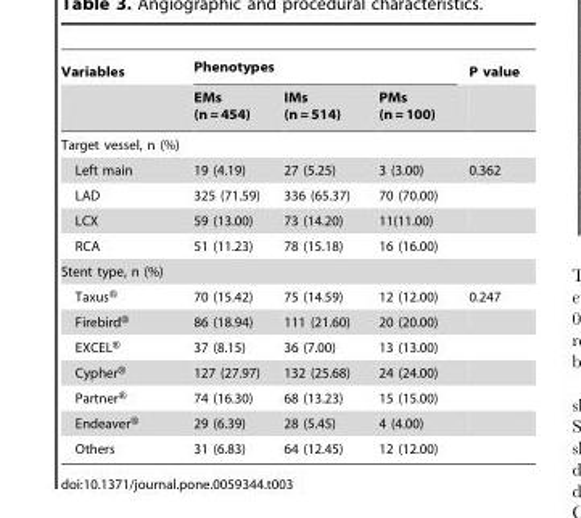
<table><thead><tr><td rowspan="2">Variables</td><td colspan="3">Phenotypes</td><td rowspan="2">P value</td></tr><tr><td>EMs (n = 454)</td><td>IMs (n = 514)</td><td>PMs (n = 100)</td></tr></thead><tbody><tr><td colspan="5">Target vessel, n (%)</td></tr><tr><td>Left main</td><td>19 (4.19)</td><td>27 (5.25)</td><td>3 (3.00)</td><td>0.362</td></tr><tr><td>LAD</td><td>325 (71.59)</td><td>336 (65.37)</td><td>70 (70.00)</td><td></td></tr><tr><td>LCX</td><td>59 (13.00)</td><td>73 (14.20)</td><td>11(11.00)</td><td></td></tr><tr><td>RCA</td><td>51 (11.23)</td><td>78 (15.18)</td><td>16 (16.00)</td><td></td></tr><tr><td colspan="5">Stent type, n (%)</td></tr><tr><td>Taxus®</td><td>70 (15.42)</td><td>75 (14.59)</td><td>12 (12.00)</td><td>0.247</td></tr><tr><td>Firebird®</td><td>86 (18.94)</td><td>111 (21.60)</td><td>20 (20.00)</td><td></td></tr><tr><td>EXCEL®</td><td>37 (8.15)</td><td>36 (7.00)</td><td>13 (13.00)</td><td></td></tr><tr><td>Cypher®</td><td>127 (27.97)</td><td>132 (25.68)</td><td>24 (24.00)</td><td></td></tr><tr><td>Partner®</td><td>74 (16.30)</td><td>68 (13.23)</td><td>15 (15.00)</td><td></td></tr><tr><td>Endeaver®</td><td>29 (6.39)</td><td>28 (5.45)</td><td>4 (4.00)</td><td></td></tr><tr><td>Others</td><td>31 (6.83)</td><td>64 (12.45)</td><td>12 (12.00)</td><td></td></tr></tbody></table>